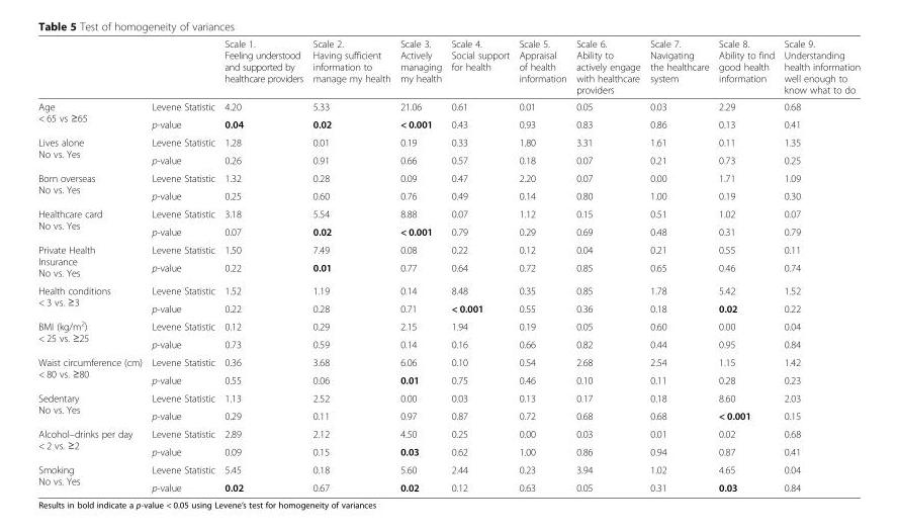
<table><thead><tr><td></td><td></td><td>Scale 1. Feeling understood and supported by healthcare providers</td><td>Scale 2. Having sufficient information to manage my health</td><td>Scale 3. Actively managing my health</td><td>Scale 4. Social support for health</td><td>Scale 5. Appraisal of health information</td><td>Scale 6. Ability to actively engage with healthcare providers</td><td>Scale 7. Navigating the healthcare system</td><td>Scale 8. Ability to find good health information</td><td>Scale 9. Understanding health information well enough to know what to do</td></tr></thead><tbody><tr><td rowspan="2">Age &lt; 65 vs ≥65</td><td>Levene Statistic</td><td>4.20</td><td>5.33</td><td>21.06</td><td>0.61</td><td>0.01</td><td>0.05</td><td>0.03</td><td>2.29</td><td>0.68</td></tr><tr><td>p-value</td><td>0.04</td><td>0.02</td><td>&lt; 0.001</td><td>0.43</td><td>0.93</td><td>0.83</td><td>0.86</td><td>0.13</td><td>0.41</td></tr><tr><td rowspan="2">Lives alone No vs. Yes</td><td>Levene Statistic</td><td>1.28</td><td>0.01</td><td>0.19</td><td>0.33</td><td>1.80</td><td>3.31</td><td>1.61</td><td>0.11</td><td>1.35</td></tr><tr><td>p-value</td><td>0.26</td><td>0.91</td><td>0.66</td><td>0.57</td><td>0.18</td><td>0.07</td><td>0.21</td><td>0.73</td><td>0.25</td></tr><tr><td rowspan="2">Born overseas No vs. Yes</td><td>Levene Statistic</td><td>1.32</td><td>0.28</td><td>0.09</td><td>0.47</td><td>2.20</td><td>0.07</td><td>0.00</td><td>1.71</td><td>1.09</td></tr><tr><td>p-value</td><td>0.25</td><td>0.60</td><td>0.76</td><td>0.49</td><td>0.14</td><td>0.80</td><td>1.00</td><td>0.19</td><td>0.30</td></tr><tr><td rowspan="2">Healthcare card No vs. Yes</td><td>Levene Statistic</td><td>3.18</td><td>5.54</td><td>8.88</td><td>0.07</td><td>1.12</td><td>0.15</td><td>0.51</td><td>1.02</td><td>0.07</td></tr><tr><td>p-value</td><td>0.07</td><td>0.02</td><td>&lt; 0.001</td><td>0.79</td><td>0.29</td><td>0.69</td><td>0.48</td><td>0.31</td><td>0.79</td></tr><tr><td rowspan="2">Private Health Insurance No vs. Yes</td><td>Levene Statistic</td><td>1.50</td><td>7.49</td><td>0.08</td><td>0.22</td><td>0.12</td><td>0.04</td><td>0.21</td><td>0.55</td><td>0.11</td></tr><tr><td>p-value</td><td>0.22</td><td>0.01</td><td>0.77</td><td>0.64</td><td>0.72</td><td>0.85</td><td>0.65</td><td>0.46</td><td>0.74</td></tr><tr><td rowspan="2">Health conditions &lt; 3 vs. ≥3</td><td>Levene Statistic</td><td>1.52</td><td>1.19</td><td>0.14</td><td>8.48</td><td>0.35</td><td>0.85</td><td>1.78</td><td>5.42</td><td>1.52</td></tr><tr><td>p-value</td><td>0.22</td><td>0.28</td><td>0.71</td><td>&lt; 0.001</td><td>0.55</td><td>0.36</td><td>0.18</td><td>0.02</td><td>0.22</td></tr><tr><td rowspan="2">BMI (kg/m<sup>2</sup>) &lt; 25 vs. ≥25</td><td>Levene Statistic</td><td>0.12</td><td>0.29</td><td>2.15</td><td>1.94</td><td>0.19</td><td>0.05</td><td>0.60</td><td>0.00</td><td>0.04</td></tr><tr><td>p-value</td><td>0.73</td><td>0.59</td><td>0.14</td><td>0.16</td><td>0.66</td><td>0.82</td><td>0.44</td><td>0.95</td><td>0.84</td></tr><tr><td rowspan="2">Waist circumference (cm) &lt; 80 vs. ≥80</td><td>Levene Statistic</td><td>0.36</td><td>3.68</td><td>6.06</td><td>0.10</td><td>0.54</td><td>2.68</td><td>2.54</td><td>1.15</td><td>1.42</td></tr><tr><td>p-value</td><td>0.55</td><td>0.06</td><td>0.01</td><td>0.75</td><td>0.46</td><td>0.10</td><td>0.11</td><td>0.28</td><td>0.23</td></tr><tr><td rowspan="2">Sedentary No vs. Yes</td><td>Levene Statistic</td><td>1.13</td><td>2.52</td><td>0.00</td><td>0.03</td><td>0.13</td><td>0.17</td><td>0.18</td><td>8.60</td><td>2.03</td></tr><tr><td>p-value</td><td>0.29</td><td>0.11</td><td>0.97</td><td>0.87</td><td>0.72</td><td>0.68</td><td>0.68</td><td>&lt; 0.001</td><td>0.15</td></tr><tr><td rowspan="2">Alcohol–drinks per day &lt; 2 vs. ≥2</td><td>Levene Statistic</td><td>2.89</td><td>2.12</td><td>4.50</td><td>0.25</td><td>0.00</td><td>0.03</td><td>0.01</td><td>0.02</td><td>0.68</td></tr><tr><td>p-value</td><td>0.09</td><td>0.15</td><td>0.03</td><td>0.62</td><td>1.00</td><td>0.86</td><td>0.94</td><td>0.87</td><td>0.41</td></tr><tr><td rowspan="2">Smoking No vs. Yes</td><td>Levene Statistic</td><td>5.45</td><td>0.18</td><td>5.60</td><td>2.44</td><td>0.23</td><td>3.94</td><td>1.02</td><td>4.65</td><td>0.04</td></tr><tr><td>p-value</td><td>0.02</td><td>0.67</td><td>0.02</td><td>0.12</td><td>0.63</td><td>0.05</td><td>0.31</td><td>0.03</td><td>0.84</td></tr></tbody></table>